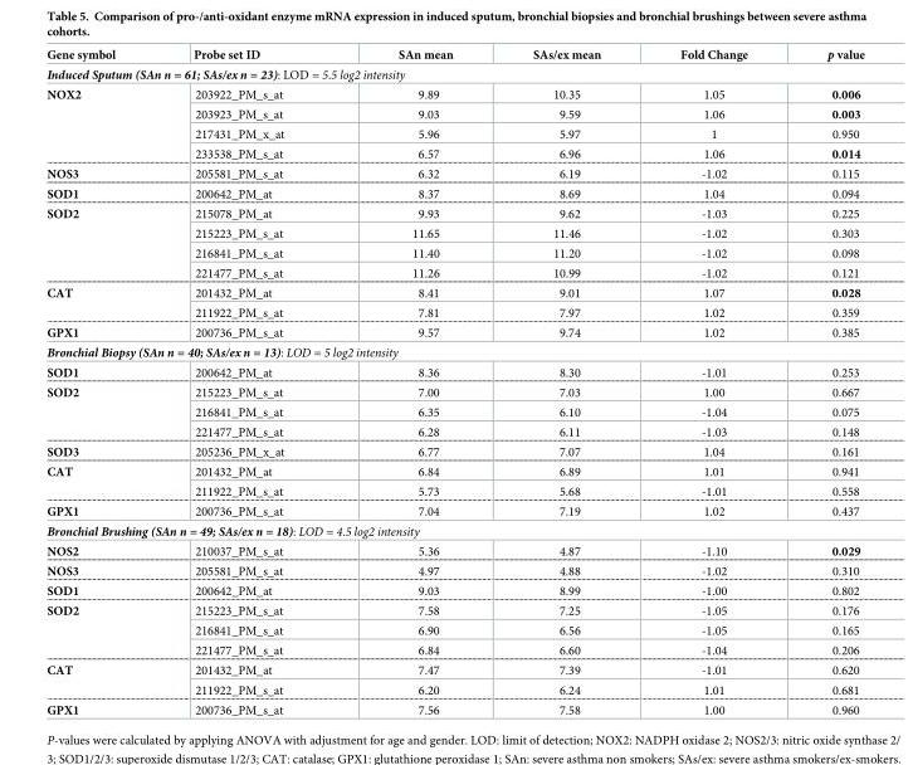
<table><thead><tr><td>Gene symbol</td><td>Probe set ID</td><td>SAn mean</td><td>SAs/ex mean</td><td>Fold Change</td><td>p value</td></tr></thead><tbody><tr><td colspan="6">Induced Sputum (SAn n = 61; SAs/ex n = 23): LOD = 5.5 log2 intensity</td></tr><tr><td rowspan="4">NOX2</td><td>203922_PM_s_at</td><td>9.89</td><td>10.35</td><td>1.05</td><td>0.006</td></tr><tr><td>203923_PM_s_at</td><td>9.03</td><td>9.59</td><td>1.06</td><td>0.003</td></tr><tr><td>217431_PM_x_at</td><td>5.96</td><td>5.97</td><td>1</td><td>0.950</td></tr><tr><td>233538_PM_s_at</td><td>6.57</td><td>6.96</td><td>1.06</td><td>0.014</td></tr><tr><td>NOS3</td><td>205581_PM_s_at</td><td>6.32</td><td>6.19</td><td>-1.02</td><td>0.115</td></tr><tr><td>SOD1</td><td>200642_PM_at</td><td>8.37</td><td>8.69</td><td>1.04</td><td>0.094</td></tr><tr><td rowspan="4">SOD2</td><td>215078_PM_at</td><td>9.93</td><td>9.62</td><td>-1.03</td><td>0.225</td></tr><tr><td>215223_PM_s_at</td><td>11.65</td><td>11.46</td><td>-1.02</td><td>0.303</td></tr><tr><td>216841_PM_s_at</td><td>11.40</td><td>11.20</td><td>-1.02</td><td>0.098</td></tr><tr><td>221477_PM_s_at</td><td>11.26</td><td>10.99</td><td>-1.02</td><td>0.121</td></tr><tr><td rowspan="2">CAT</td><td>201432_PM_at</td><td>8.41</td><td>9.01</td><td>1.07</td><td>0.028</td></tr><tr><td>211922_PM_s_at</td><td>7.81</td><td>7.97</td><td>1.02</td><td>0.359</td></tr><tr><td>GPX1</td><td>200736_PM_s_at</td><td>9.57</td><td>9.74</td><td>1.02</td><td>0.385</td></tr><tr><td colspan="6">Bronchial Biopsy (SAn n = 40; SAs/ex n = 13): LOD = 5 log2 intensity</td></tr><tr><td>SOD1</td><td>200642_PM_at</td><td>8.36</td><td>8.30</td><td>-1.01</td><td>0.253</td></tr><tr><td rowspan="3">SOD2</td><td>215223_PM_s_at</td><td>7.00</td><td>7.03</td><td>1.00</td><td>0.667</td></tr><tr><td>216841_PM_s_at</td><td>6.35</td><td>6.10</td><td>-1.04</td><td>0.075</td></tr><tr><td>221477_PM_s_at</td><td>6.28</td><td>6.11</td><td>-1.03</td><td>0.148</td></tr><tr><td>SOD3</td><td>205236_PM_x_at</td><td>6.77</td><td>7.07</td><td>1.04</td><td>0.161</td></tr><tr><td rowspan="2">CAT</td><td>201432_PM_at</td><td>6.84</td><td>6.89</td><td>1.01</td><td>0.941</td></tr><tr><td>211922_PM_s_at</td><td>5.73</td><td>5.68</td><td>-1.01</td><td>0.558</td></tr><tr><td>GPX1</td><td>200736_PM_s_at</td><td>7.04</td><td>7.19</td><td>1.02</td><td>0.437</td></tr><tr><td colspan="6">Bronchial Brushing (SAn n = 49; SAs/ex n = 18): LOD = 4.5 log2 intensity</td></tr><tr><td>NOS2</td><td>210037_PM_s_at</td><td>5.36</td><td>4.87</td><td>-1.10</td><td>0.029</td></tr><tr><td>NOS3</td><td>205581_PM_s_at</td><td>4.97</td><td>4.88</td><td>-1.02</td><td>0.310</td></tr><tr><td>SOD1</td><td>200642_PM_at</td><td>9.03</td><td>8.99</td><td>-1.00</td><td>0.802</td></tr><tr><td rowspan="3">SOD2</td><td>215223_PM_s_at</td><td>7.58</td><td>7.25</td><td>-1.05</td><td>0.176</td></tr><tr><td>216841_PM_s_at</td><td>6.90</td><td>6.56</td><td>-1.05</td><td>0.165</td></tr><tr><td>221477_PM_s_at</td><td>6.84</td><td>6.60</td><td>-1.04</td><td>0.206</td></tr><tr><td rowspan="2">CAT</td><td>201432_PM_at</td><td>7.47</td><td>7.39</td><td>-1.01</td><td>0.620</td></tr><tr><td>211922_PM_s_at</td><td>6.20</td><td>6.24</td><td>1.01</td><td>0.681</td></tr><tr><td>GPX1</td><td>200736_PM_s_at</td><td>7.56</td><td>7.58</td><td>1.00</td><td>0.960</td></tr></tbody></table>